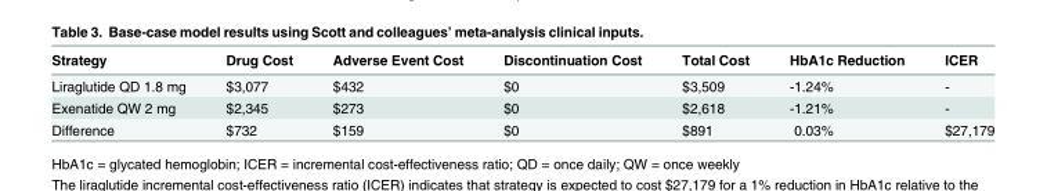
<table><thead><tr><td>Strategy</td><td>Drug Cost</td><td>Adverse Event Cost</td><td>Discontinuation Cost</td><td>Total Cost</td><td>HbA1c Reduction</td><td>ICER</td></tr></thead><tbody><tr><td>Liraglutide QD 1.8 mg</td><td>$3,077</td><td>$432</td><td>$0</td><td>$3,509</td><td>-1.24%</td><td>-</td></tr><tr><td>Exenatide QW 2 mg</td><td>$2,345</td><td>$273</td><td>$0</td><td>$2,618</td><td>-1.21%</td><td>-</td></tr><tr><td>Difference</td><td>$732</td><td>$159</td><td>$0</td><td>$891</td><td>0.03%</td><td>$27,179</td></tr></tbody></table>